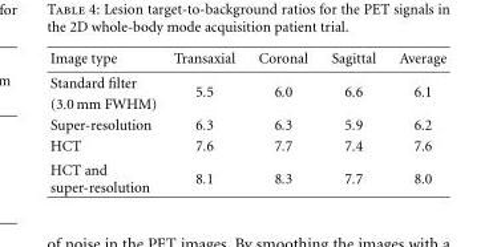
<table><tbody><tr><td>Image type</td><td>Transaxial</td><td>Coronal</td><td>Sagittal</td><td>Average</td></tr><tr><td>Standard filter</td><td rowspan="2">5.5</td><td rowspan="2">6.0</td><td rowspan="2">6.6</td><td rowspan="2">6.1</td></tr><tr><td>(3.0mm FWHM)</td></tr><tr><td>Super-resolution</td><td>6.3</td><td>6.3</td><td>5.9</td><td>6.2</td></tr><tr><td>HCT</td><td>7.6</td><td>7.7</td><td>7.4</td><td>7.6</td></tr><tr><td>HCT and super-resolution</td><td>8.1</td><td>8.3</td><td>7.7</td><td>8.0</td></tr></tbody></table>